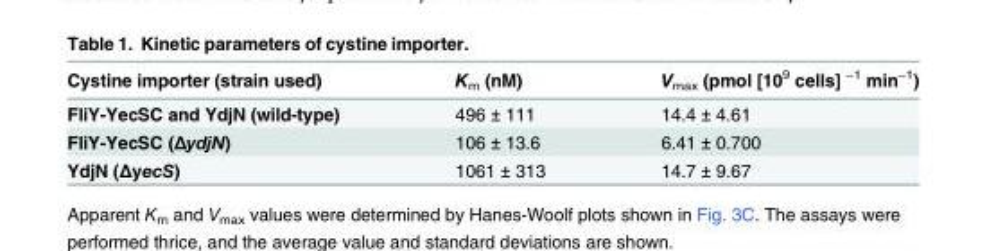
<table><thead><tr><td>Cystine importer (strain used)</td><td>K<sub>m</sub> (nM)</td><td>V<sub>max</sub> (pmol [10<sup>9</sup> cells] <sup>−1</sup> min<sup>−1</sup>)</td></tr></thead><tbody><tr><td>FliY-YecSC and YdjN (wild-type)</td><td>496 ± 111</td><td>14.4 ± 4.61</td></tr><tr><td>FliY-YecSC (ΔydjN)</td><td>106 ± 13.6</td><td>6.41 ± 0.700</td></tr><tr><td>YdjN (ΔyecS)</td><td>1061 ± 313</td><td>14.7 ± 9.67</td></tr></tbody></table>